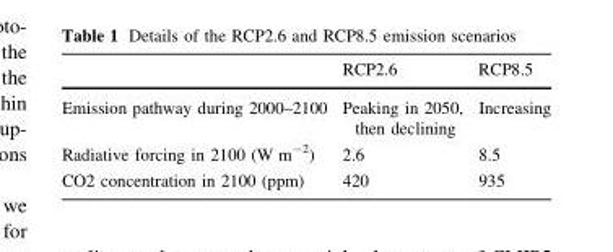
<table><thead><tr><td></td><td>RCP2.6</td><td>RCP8.5</td></tr></thead><tbody><tr><td>Emission pathway during 2000–2100</td><td>Peaking in 2050, then declining</td><td>Increasing</td></tr><tr><td>Radiative forcing in 2100 (W m<sup>-2</sup>)</td><td>2.6</td><td>8.5</td></tr><tr><td>CO2 concentration in 2100 (ppm)</td><td>420</td><td>935</td></tr></tbody></table>